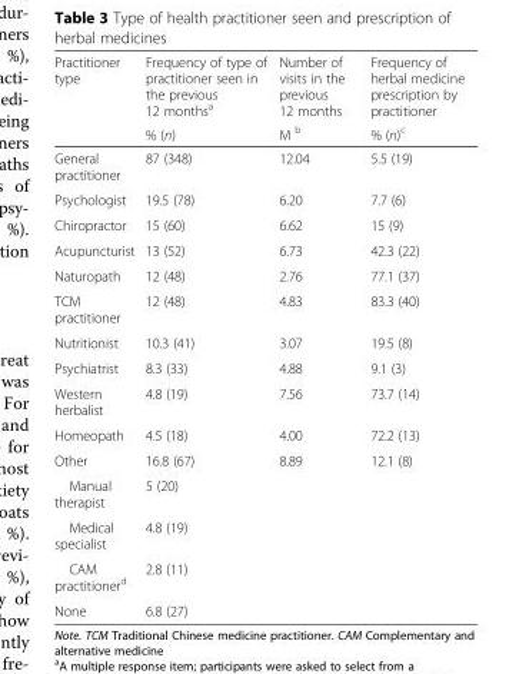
<table><thead><tr><td rowspan="2">Practitioner type</td><td rowspan="2">Frequency of type of practitioner seen in the previous 12 months<sup>a</sup> % (n)</td><td rowspan="2">Number of visits in the previous 12 months M <sup>b</sup></td><td rowspan="2">Frequency of herbal medicine prescription by practitioner % (n)<sup>c</sup></td></tr><tr></tr></thead><tbody><tr><td>General practitioner</td><td>87 (348)</td><td>12.04</td><td>5.5 (19)</td></tr><tr><td>Psychologist</td><td>19.5 (78)</td><td>6.20</td><td>7.7 (6)</td></tr><tr><td>Chiropractor</td><td>15 (60)</td><td>6.62</td><td>15 (9)</td></tr><tr><td>Acupuncturist</td><td>13 (52)</td><td>6.73</td><td>42.3 (22)</td></tr><tr><td>Naturopath</td><td>12 (48)</td><td>2.76</td><td>77.1 (37)</td></tr><tr><td>TCM practitioner</td><td>12 (48)</td><td>4.83</td><td>83.3 (40)</td></tr><tr><td>Nutritionist</td><td>10.3 (41)</td><td>3.07</td><td>19.5 (8)</td></tr><tr><td>Psychiatrist</td><td>8.3 (33)</td><td>4.88</td><td>9.1 (3)</td></tr><tr><td>Western herbalist</td><td>4.8 (19)</td><td>7.56</td><td>73.7 (14)</td></tr><tr><td>Homeopath</td><td>4.5 (18)</td><td>4.00</td><td>72.2 (13)</td></tr><tr><td>Other</td><td>16.8 (67)</td><td rowspan="2">8.89</td><td rowspan="2">12.1 (8)</td></tr><tr><td>Manual therapist</td><td>5 (20)</td></tr><tr><td>Medical specialist</td><td>4.8 (19)</td><td></td><td></td></tr><tr><td>CAM practitioner<sup>d</sup></td><td>2.8 (11)</td><td></td><td></td></tr><tr><td>None</td><td>6.8 (27)</td><td></td><td></td></tr></tbody></table>